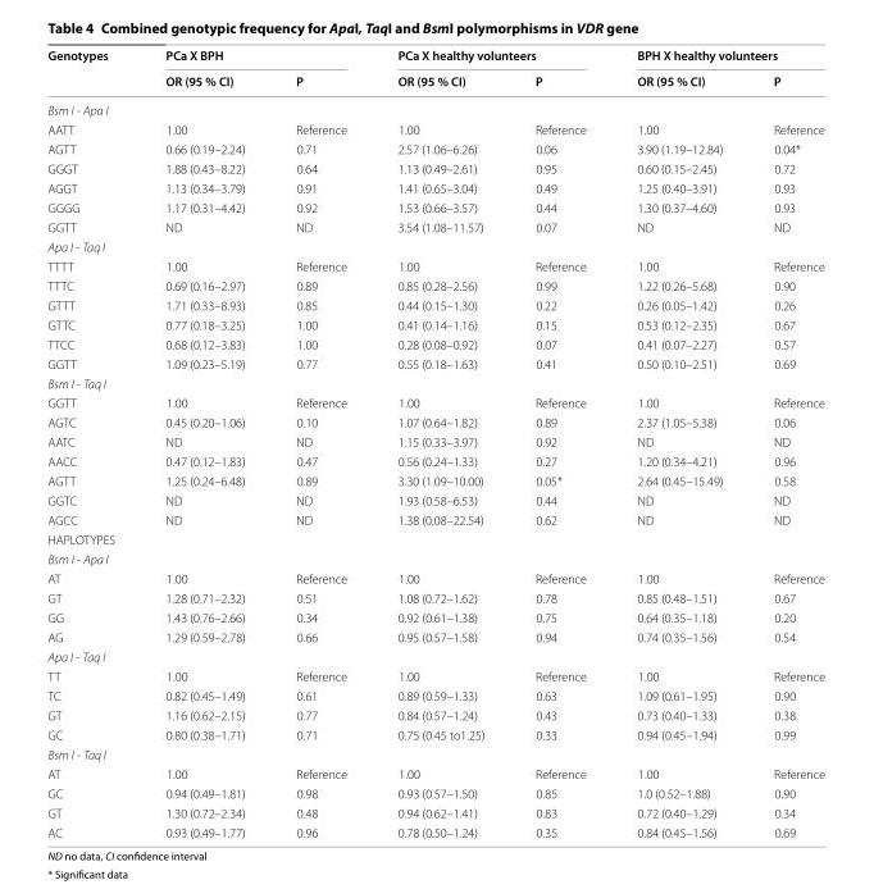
<table><thead><tr><td rowspan="2">Genotypes</td><td colspan="2">PCa X BPH</td><td colspan="2">PCa X healthy volunteers</td><td colspan="2">BPH X healthy volunteers</td></tr><tr><td>OR (95 % CI)</td><td>P</td><td>OR (95 % CI)</td><td>P</td><td>OR (95 % CI)</td><td>P</td></tr></thead><tbody><tr><td colspan="7">Bsm I - Apa I</td></tr><tr><td>AATT</td><td>1.00</td><td>Reference</td><td>1.00</td><td>Reference</td><td>1.00</td><td>Reference</td></tr><tr><td>AGTT</td><td>0.66 (0.19–2.24)</td><td>0.71</td><td>2.57 (1.06–6.26)</td><td>0.06</td><td>3.90 (1.19–12.84)</td><td>0.04*</td></tr><tr><td>GGGT</td><td>1.88 (0.43–8.22)</td><td>0.64</td><td>1.13 (0.49–2.61)</td><td>0.95</td><td>0.60 (0.15–2.45)</td><td>0.72</td></tr><tr><td>AGGT</td><td>1.13 (0.34–3.79)</td><td>0.91</td><td>1.41 (0.65–3.04)</td><td>0.49</td><td>1.25 (0.40–3.91)</td><td>0.93</td></tr><tr><td>GGGG</td><td>1.17 (0.31–4.42)</td><td>0.92</td><td>1.53 (0.66–3.57)</td><td>0.44</td><td>1.30 (0.37–4.60)</td><td>0.93</td></tr><tr><td>GGTT</td><td>ND</td><td>ND</td><td>3.54 (1.08–11.57)</td><td>0.07</td><td>ND</td><td>ND</td></tr><tr><td colspan="7">Apa I - Taq I</td></tr><tr><td>TTTT</td><td>1.00</td><td>Reference</td><td>1.00</td><td>Reference</td><td>1.00</td><td>Reference</td></tr><tr><td>TTTC</td><td>0.69 (0.16–2.97)</td><td>0.89</td><td>0.85 (0.28–2.56)</td><td>0.99</td><td>1.22 (0.26–5.68)</td><td>0.90</td></tr><tr><td>GTTT</td><td>1.71 (0.33–8.93)</td><td>0.85</td><td>0.44 (0.15–1.30)</td><td>0.22</td><td>0.26 (0.05–1.42)</td><td>0.26</td></tr><tr><td>GTTC</td><td>0.77 (0.18–3.25)</td><td>1.00</td><td>0.41 (0.14–1.16)</td><td>0.15</td><td>0.53 (0.12–2.35)</td><td>0.67</td></tr><tr><td>TTCC</td><td>0.68 (0.12–3.83)</td><td>1.00</td><td>0.28 (0.08–0.92)</td><td>0.07</td><td>0.41 (0.07–2.27)</td><td>0.57</td></tr><tr><td>GGTT</td><td>1.09 (0.23–5.19)</td><td>0.77</td><td>0.55 (0.18–1.63)</td><td>0.41</td><td>0.50 (0.10–2.51)</td><td>0.69</td></tr><tr><td colspan="7">Bsm I - Taq I</td></tr><tr><td>GGTT</td><td>1.00</td><td>Reference</td><td>1.00</td><td>Reference</td><td>1.00</td><td>Reference</td></tr><tr><td>AGTC</td><td>0.45 (0.20–1.06)</td><td>0.10</td><td>1.07 (0.64–1.82)</td><td>0.89</td><td>2.37 (1.05–5.38)</td><td>0.06</td></tr><tr><td>AATC</td><td>ND</td><td>ND</td><td>1.15 (0.33–3.97)</td><td>0.92</td><td>ND</td><td>ND</td></tr><tr><td>AACC</td><td>0.47 (0.12–1.83)</td><td>0.47</td><td>0.56 (0.24–1.33)</td><td>0.27</td><td>1.20 (0.34–4.21)</td><td>0.96</td></tr><tr><td>AGTT</td><td>1.25 (0.24–6.48)</td><td>0.89</td><td>3.30 (1.09–10.00)</td><td>0.05*</td><td>2.64 (0.45–15.49)</td><td>0.58</td></tr><tr><td>GGTC</td><td>ND</td><td>ND</td><td>1.93 (0.58–6.53)</td><td>0.44</td><td>ND</td><td>ND</td></tr><tr><td>AGCC</td><td>ND</td><td>ND</td><td>1.38 (0.08–22.54)</td><td>0.62</td><td>ND</td><td>ND</td></tr><tr><td colspan="7">HAPLOTYPES</td></tr><tr><td colspan="7">Bsm I - Apa I</td></tr><tr><td>AT</td><td>1.00</td><td>Reference</td><td>1.00</td><td>Reference</td><td>1.00</td><td>Reference</td></tr><tr><td>GT</td><td>1.28 (0.71–2.32)</td><td>0.51</td><td>1.08 (0.72–1.62)</td><td>0.78</td><td>0.85 (0.48–1.51)</td><td>0.67</td></tr><tr><td>GG</td><td>1.43 (0.76–2.66)</td><td>0.34</td><td>0.92 (0.61–1.38)</td><td>0.75</td><td>0.64 (0.35–1.18)</td><td>0.20</td></tr><tr><td>AG</td><td>1.29 (0.59–2.78)</td><td>0.66</td><td>0.95 (0.57–1.58)</td><td>0.94</td><td>0.74 (0.35–1.56)</td><td>0.54</td></tr><tr><td colspan="7">Apa I - Taq I</td></tr><tr><td>TT</td><td>1.00</td><td>Reference</td><td>1.00</td><td>Reference</td><td>1.00</td><td>Reference</td></tr><tr><td>TC</td><td>0.82 (0.45–1.49)</td><td>0.61</td><td>0.89 (0.59–1.33)</td><td>0.63</td><td>1.09 (0.61–1.95)</td><td>0.90</td></tr><tr><td>GT</td><td>1.16 (0.62–2.15)</td><td>0.77</td><td>0.84 (0.57–1.24)</td><td>0.43</td><td>0.73 (0.40–1.33)</td><td>0.38</td></tr><tr><td>GC</td><td>0.80 (0.38–1.71)</td><td>0.71</td><td>0.75 (0.45 to1.25)</td><td>0.33</td><td>0.94 (0.45–1.94)</td><td>0.99</td></tr><tr><td colspan="7">Bsm I - Taq I</td></tr><tr><td>AT</td><td>1.00</td><td>Reference</td><td>1.00</td><td>Reference</td><td>1.00</td><td>Reference</td></tr><tr><td>GC</td><td>0.94 (0.49–1.81)</td><td>0.98</td><td>0.93 (0.57–1.50)</td><td>0.85</td><td>1.0 (0.52–1.88)</td><td>0.90</td></tr><tr><td>GT</td><td>1.30 (0.72–2.34)</td><td>0.48</td><td>0.94 (0.62–1.41)</td><td>0.83</td><td>0.72 (0.40–1.29)</td><td>0.34</td></tr><tr><td>AC</td><td>0.93 (0.49–1.77)</td><td>0.96</td><td>0.78 (0.50–1.24)</td><td>0.35</td><td>0.84 (0.45–1.56)</td><td>0.69</td></tr></tbody></table>